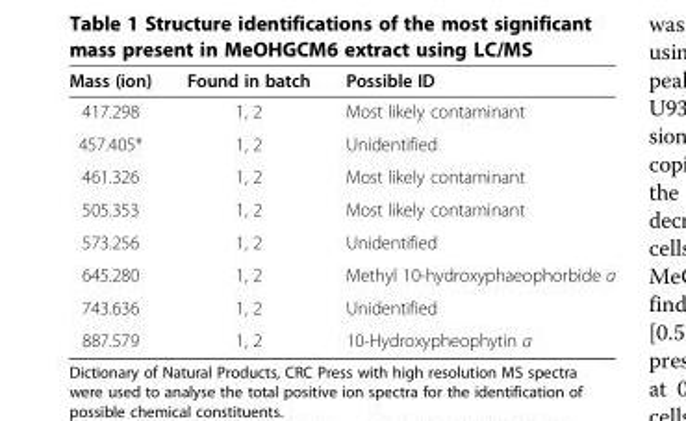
<table><thead><tr><td>Mass (ion)</td><td>Found in batch</td><td>Possible ID</td></tr></thead><tbody><tr><td>417.298</td><td>1, 2</td><td>Most likely contaminant</td></tr><tr><td>457.405*</td><td>1, 2</td><td>Unidentified</td></tr><tr><td>461.326</td><td>1, 2</td><td>Most likely contaminant</td></tr><tr><td>505.353</td><td>1, 2</td><td>Most likely contaminant</td></tr><tr><td>573.256</td><td>1, 2</td><td>Unidentified</td></tr><tr><td>645.280</td><td>1, 2</td><td>Methyl 10-hydroxyphaeophorbide a</td></tr><tr><td>743.636</td><td>1, 2</td><td>Unidentified</td></tr><tr><td>887.579</td><td>1, 2</td><td>10-Hydroxypheophytin a</td></tr></tbody></table>